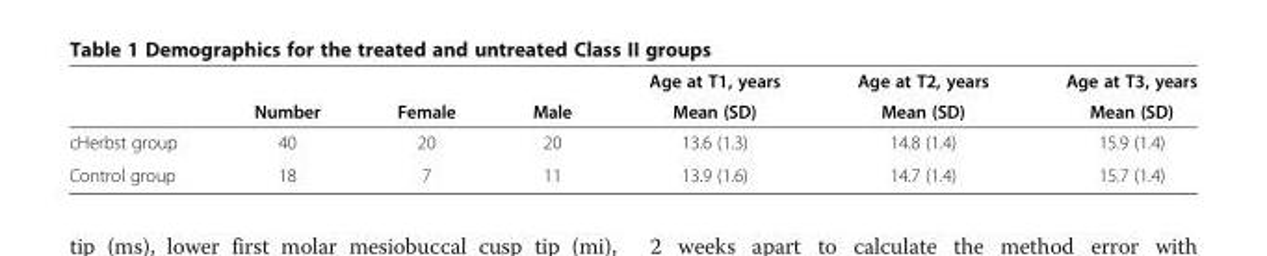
<table><thead><tr><td rowspan="2"></td><td rowspan="2">Number</td><td rowspan="2">Female</td><td rowspan="2">Male</td><td rowspan="2">Age at T1, years Mean (SD)</td><td rowspan="2">Age at T2, years Mean (SD)</td><td rowspan="2">Age at T3, years Mean (SD)</td></tr><tr></tr></thead><tbody><tr><td>cHerbst group</td><td>40</td><td>20</td><td>20</td><td>13.6 (1.3)</td><td>14.8 (1.4)</td><td>15.9 (1.4)</td></tr><tr><td>Control group</td><td>18</td><td>7</td><td>11</td><td>13.9 (1.6)</td><td>14.7 (1.4)</td><td>15.7 (1.4)</td></tr></tbody></table>